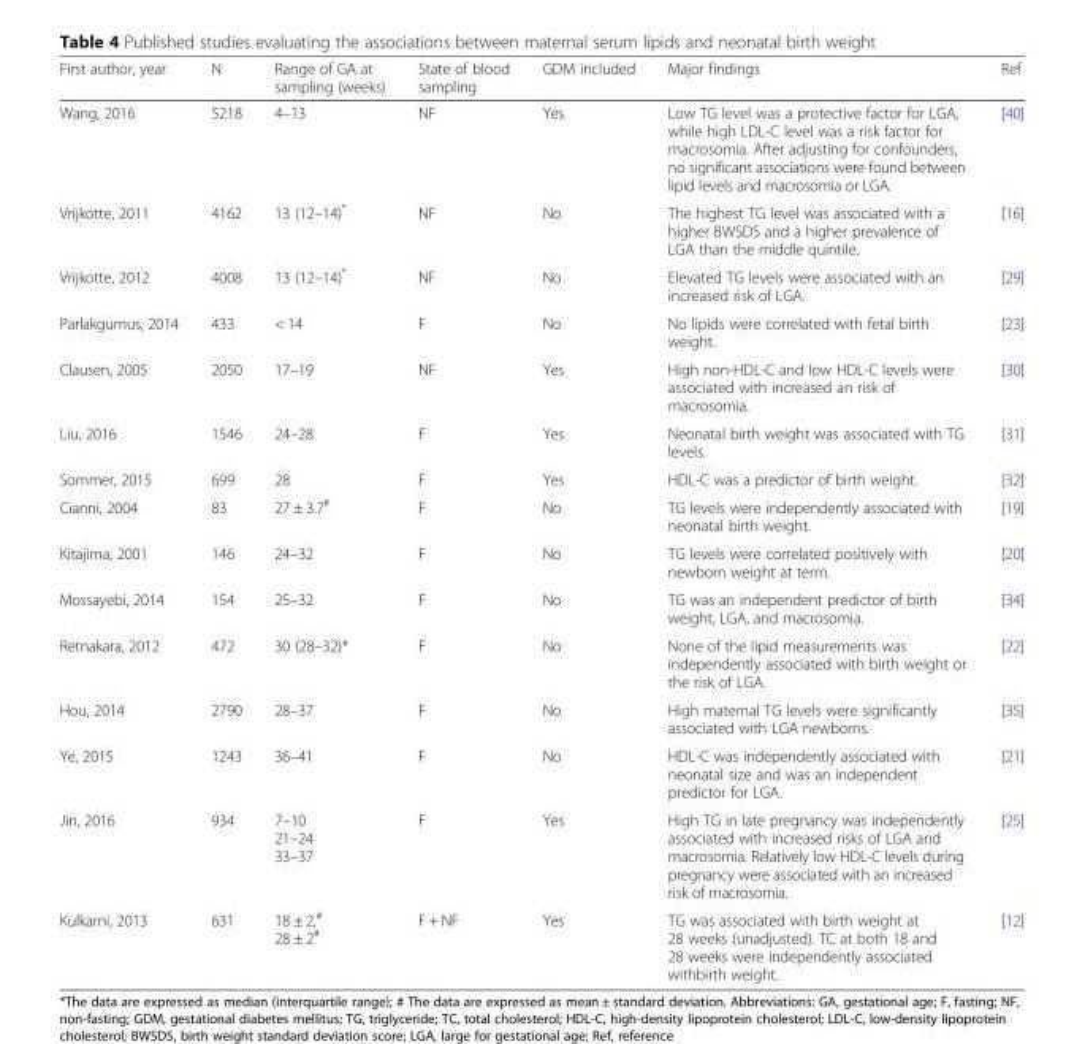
<table><thead><tr><td>First author, year</td><td>N</td><td>Range of GA at sampling (weeks)</td><td>State of blood sampling</td><td>GDM included</td><td>Major findings</td><td>Ref</td></tr></thead><tbody><tr><td>Wang, 2016</td><td>5218</td><td>4–13</td><td>NF</td><td>Yes</td><td>Low TG level was a protective factor for LGA, while high LDL-C level was a risk factor for macrosomia. After adjusting for confounders, no significant associations were found between lipid levels and macrosomia or LGA.</td><td>[40]</td></tr><tr><td>Vrijkotte, 2011</td><td>4162</td><td>13 (12–14)*</td><td>NF</td><td>No</td><td>The highest TG level was associated with a higher BWSDS and a higher prevalence of LGA than the middle quintile.</td><td>[16]</td></tr><tr><td>Vrijkotte, 2012</td><td>4008</td><td>13 (12–14)*</td><td>NF</td><td>No</td><td>Elevated TG levels were associated with an increased risk of LGA.</td><td>[29]</td></tr><tr><td>Parlakgumus, 2014</td><td>433</td><td>&lt; 14</td><td>F</td><td>No</td><td>No lipids were correlated with fetal birth weight.</td><td>[23]</td></tr><tr><td>Clausen, 2005</td><td>2050</td><td>17–19</td><td>NF</td><td>Yes</td><td>High non-HDL-C and low HDL-C levels were associated with increased an risk of macrosomia.</td><td>[30]</td></tr><tr><td>Liu, 2016</td><td>1546</td><td>24–28</td><td>F</td><td>Yes</td><td>Neonatal birth weight was associated with TG levels.</td><td>[31]</td></tr><tr><td>Sommer, 2015</td><td>699</td><td>28</td><td>F</td><td>Yes</td><td>HDL-C was a predictor of birth weight.</td><td>[32]</td></tr><tr><td>Cianni, 2004</td><td>83</td><td>27 ± 3.7<sup>#</sup></td><td>F</td><td>No</td><td>TG levels were independently associated with neonatal birth weight.</td><td>[19]</td></tr><tr><td>Kitajima, 2001</td><td>146</td><td>24–32</td><td>F</td><td>No</td><td>TG levels were correlated positively with newborn weight at term.</td><td>[20]</td></tr><tr><td>Mossayebi, 2014</td><td>154</td><td>25–32</td><td>F</td><td>No</td><td>TG was an independent predictor of birth weight, LGA, and macrosomia.</td><td>[34]</td></tr><tr><td>Retnakara, 2012</td><td>472</td><td>30 (28–32)*</td><td>F</td><td>No</td><td>None of the lipid measurements was independently associated with birth weight or the risk of LGA.</td><td>[22]</td></tr><tr><td>Hou, 2014</td><td>2790</td><td>28–37</td><td>F</td><td>No</td><td>High maternal TG levels were significantly associated with LGA newborns.</td><td>[35]</td></tr><tr><td>Ye, 2015</td><td>1243</td><td>36–41</td><td>F</td><td>No</td><td>HDL-C was independently associated with neonatal size and was an independent predictor for LGA.</td><td>[21]</td></tr><tr><td>Jin, 2016</td><td>934</td><td>7–10 21–24 33–37</td><td>F</td><td>Yes</td><td>High TG in late pregnancy was independently associated with increased risks of LGA and macrosomia. Relatively low HDL-C levels during pregnancy were associated with an increased risk of macrosomia.</td><td>[25]</td></tr><tr><td>Kulkarni, 2013</td><td>631</td><td>18 ± 2,<sup>#</sup> 28 ± 2<sup>#</sup></td><td>F + NF</td><td>Yes</td><td>TG was associated with birth weight at 28 weeks (unadjusted). TC at both 18 and 28 weeks were independently associated withbirth weight.</td><td>[12]</td></tr></tbody></table>